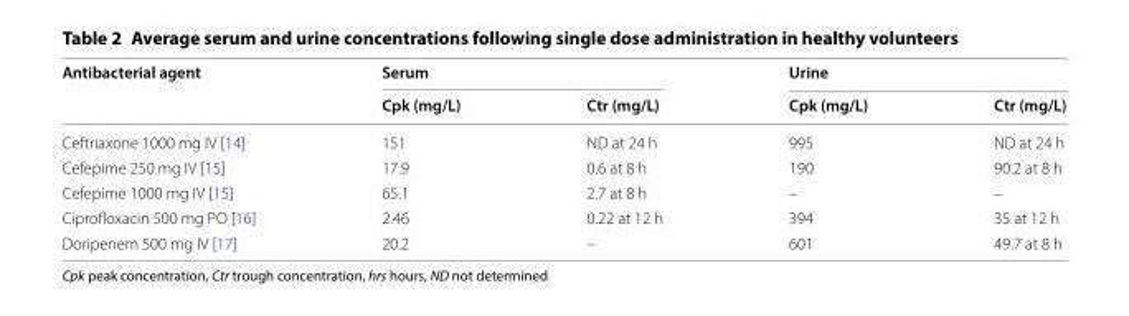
<table><thead><tr><td rowspan="2">Antibacterial agent</td><td colspan="2">Serum</td><td colspan="2">Urine</td></tr><tr><td>Cpk (mg/L)</td><td>Ctr (mg/L)</td><td>Cpk (mg/L)</td><td>Ctr (mg/L)</td></tr></thead><tbody><tr><td>Ceftriaxone 1000 mg IV [14]</td><td>151</td><td>ND at 24 h</td><td>995</td><td>ND at 24 h</td></tr><tr><td>Cefepime 250 mg IV [15]</td><td>17.9</td><td>0.6 at 8 h</td><td>190</td><td>90.2 at 8 h</td></tr><tr><td>Cefepime 1000 mg IV [15]</td><td>65.1</td><td>2.7 at 8 h</td><td>–</td><td>–</td></tr><tr><td>Ciprofloxacin 500 mg PO [16]</td><td>2.46</td><td>0.22 at 12 h</td><td>394</td><td>35 at 12 h</td></tr><tr><td>Doripenem 500 mg IV [17]</td><td>20.2</td><td>–</td><td>601</td><td>49.7 at 8 h</td></tr></tbody></table>